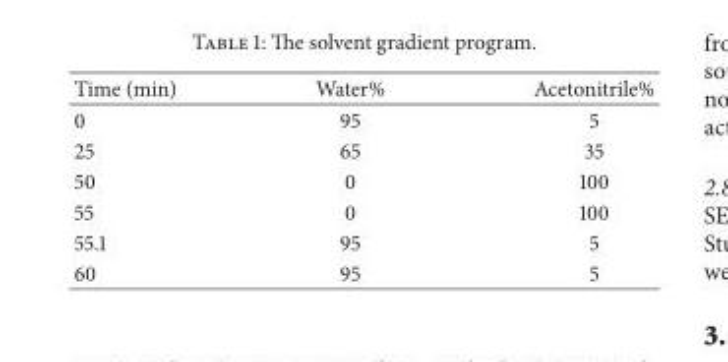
<table><thead><tr><td>Time (min)</td><td>Water%</td><td>Acetonitrile%</td></tr></thead><tbody><tr><td>0</td><td>95</td><td>5</td></tr><tr><td>25</td><td>65</td><td>35</td></tr><tr><td>50</td><td>0</td><td>100</td></tr><tr><td>55</td><td>0</td><td>100</td></tr><tr><td>55.1</td><td>95</td><td>5</td></tr><tr><td>60</td><td>95</td><td>5</td></tr></tbody></table>